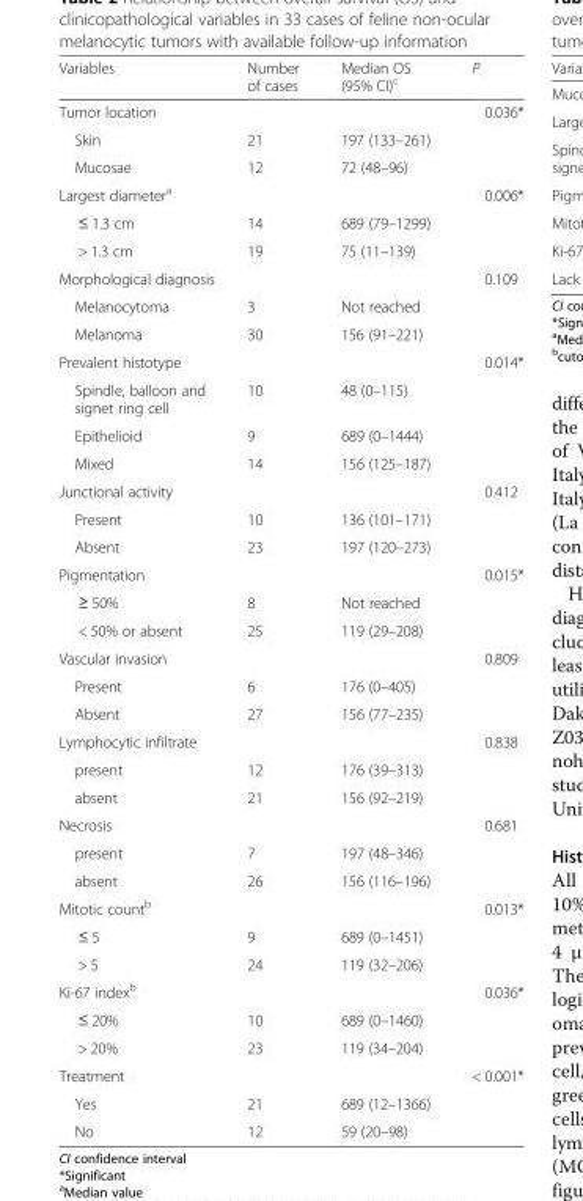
<table><thead><tr><td>Variables</td><td>Number of cases</td><td>Median OS (95% CI)<sup>c</sup></td><td>P</td></tr></thead><tbody><tr><td colspan="3">Tumor location</td><td rowspan="3">0.036*</td></tr><tr><td>Skin</td><td>21</td><td>197 (133–261)</td></tr><tr><td>Mucosae</td><td>12</td><td>72 (48–96)</td></tr><tr><td colspan="3">Largest diameter<sup>a</sup></td><td rowspan="3">0.006*</td></tr><tr><td>≤ 1.3 cm</td><td>14</td><td>689 (79–1299)</td></tr><tr><td>&gt; 1.3 cm</td><td>19</td><td>75 (11–139)</td></tr><tr><td colspan="3">Morphological diagnosis</td><td rowspan="3">0.109</td></tr><tr><td>Melanocytoma</td><td>3</td><td>Not reached</td></tr><tr><td>Melanoma</td><td>30</td><td>156 (91–221)</td></tr><tr><td colspan="3">Prevalent histotype</td><td rowspan="4">0.014*</td></tr><tr><td>Spindle, balloon and signet ring cell</td><td>10</td><td>48 (0–115)</td></tr><tr><td>Epithelioid</td><td>9</td><td>689 (0–1444)</td></tr><tr><td>Mixed</td><td>14</td><td>156 (125–187)</td></tr><tr><td colspan="3">Junctional activity</td><td rowspan="3">0.412</td></tr><tr><td>Present</td><td>10</td><td>136 (101–171)</td></tr><tr><td>Absent</td><td>23</td><td>197 (120–273)</td></tr><tr><td colspan="3">Pigmentation</td><td rowspan="3">0.015*</td></tr><tr><td>≥ 50%</td><td>8</td><td>Not reached</td></tr><tr><td>&lt; 50% or absent</td><td>25</td><td>119 (29–208)</td></tr><tr><td colspan="3">Vascular invasion</td><td rowspan="3">0.809</td></tr><tr><td>Present</td><td>6</td><td>176 (0–405)</td></tr><tr><td>Absent</td><td>27</td><td>156 (77–235)</td></tr><tr><td colspan="3">Lymphocytic infiltrate</td><td rowspan="3">0.838</td></tr><tr><td>present</td><td>12</td><td>176 (39–313)</td></tr><tr><td>absent</td><td>21</td><td>156 (92–219)</td></tr><tr><td colspan="3">Necrosis</td><td rowspan="3">0.681</td></tr><tr><td>present</td><td>7</td><td>197 (48–346)</td></tr><tr><td>absent</td><td>26</td><td>156 (116–196)</td></tr><tr><td colspan="3">Mitotic count<sup>b</sup></td><td rowspan="3">0.013*</td></tr><tr><td>≤ 5</td><td>9</td><td>689 (0–1451)</td></tr><tr><td>&gt; 5</td><td>24</td><td>119 (32–206)</td></tr><tr><td colspan="3">Ki-67 index<sup>b</sup></td><td rowspan="3">0.036*</td></tr><tr><td>≤ 20%</td><td>10</td><td>689 (0–1460)</td></tr><tr><td>&gt; 20%</td><td>23</td><td>119 (34–204)</td></tr><tr><td colspan="3">Treatment</td><td rowspan="3">&lt; 0.001*</td></tr><tr><td>Yes</td><td>21</td><td>689 (12–1366)</td></tr><tr><td>No</td><td>12</td><td>59 (20–98)</td></tr></tbody></table>